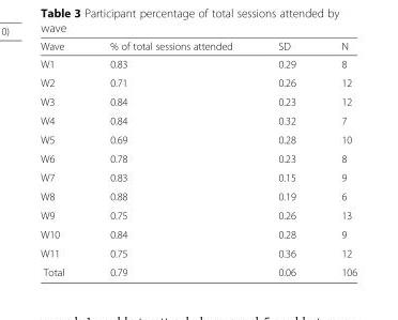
<table><thead><tr><td>Wave</td><td>% of total sessions attended</td><td>SD</td><td>N</td></tr></thead><tbody><tr><td>W1</td><td>0.83</td><td>0.29</td><td>8</td></tr><tr><td>W2</td><td>0.71</td><td>0.26</td><td>12</td></tr><tr><td>W3</td><td>0.84</td><td>0.23</td><td>12</td></tr><tr><td>W4</td><td>0.84</td><td>0.32</td><td>7</td></tr><tr><td>W5</td><td>0.69</td><td>0.28</td><td>10</td></tr><tr><td>W6</td><td>0.78</td><td>0.23</td><td>8</td></tr><tr><td>W7</td><td>0.83</td><td>0.15</td><td>9</td></tr><tr><td>W8</td><td>0.88</td><td>0.19</td><td>6</td></tr><tr><td>W9</td><td>0.75</td><td>0.26</td><td>13</td></tr><tr><td>W10</td><td>0.84</td><td>0.28</td><td>9</td></tr><tr><td>W11</td><td>0.75</td><td>0.36</td><td>12</td></tr><tr><td>Total</td><td>0.79</td><td>0.06</td><td>106</td></tr></tbody></table>